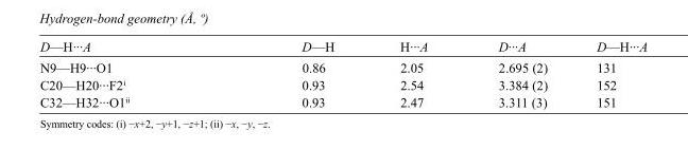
<table><tbody><tr><td>D—H···A</td><td>D—H</td><td>H···A</td><td>D···A</td><td>D—H···A</td></tr><tr><td>N9—H9···O1</td><td>0.86</td><td>2.05</td><td>2.695 (2)</td><td>131</td></tr><tr><td>C20—H20···F2<sup>i</sup></td><td>0.93</td><td>2.54</td><td>3.384 (2)</td><td>152</td></tr><tr><td>C32—H32···O1<sup>ii</sup></td><td>0.93</td><td>2.47</td><td>3.311 (3)</td><td>151</td></tr></tbody></table>